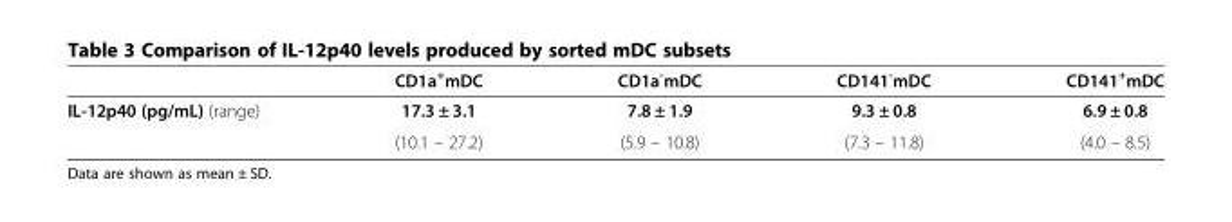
<table><thead><tr><td></td><td>CD1a<sup>+</sup>mDC</td><td>CD1a<sup>-</sup>mDC</td><td>CD141<sup>-</sup>mDC</td><td>CD141<sup>+</sup>mDC</td></tr></thead><tbody><tr><td rowspan="2">IL-12p40 (pg/mL) (range)</td><td>17.3 ± 3.1</td><td>7.8 ± 1.9</td><td>9.3 ± 0.8</td><td>6.9 ± 0.8</td></tr><tr><td>(10.1 – 27.2)</td><td>(5.9 – 10.8)</td><td>(7.3 – 11.8)</td><td>(4.0 – 8.5)</td></tr></tbody></table>